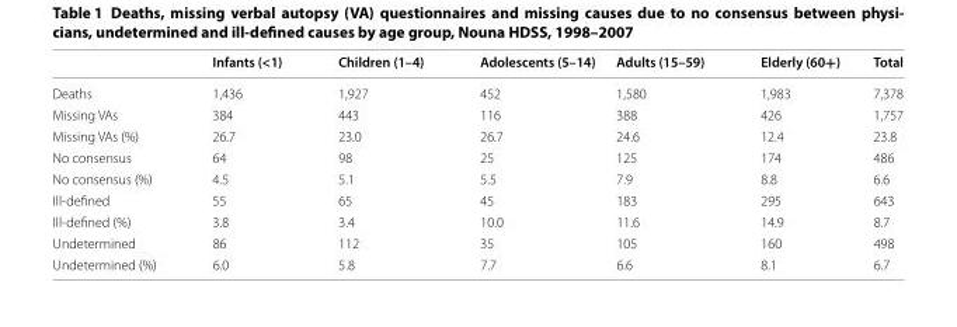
<table><thead><tr><td></td><td>Infants (&lt;1)</td><td>Children (1–4)</td><td>Adolescents (5–14)</td><td>Adults (15–59)</td><td>Elderly (60+)</td><td>Total</td></tr></thead><tbody><tr><td>Deaths</td><td>1,436</td><td>1,927</td><td>452</td><td>1,580</td><td>1,983</td><td>7,378</td></tr><tr><td>Missing VAs</td><td>384</td><td>443</td><td>116</td><td>388</td><td>426</td><td>1,757</td></tr><tr><td>Missing VAs (%)</td><td>26.7</td><td>23.0</td><td>26.7</td><td>24.6</td><td>12.4</td><td>23.8</td></tr><tr><td>No consensus</td><td>64</td><td>98</td><td>25</td><td>125</td><td>174</td><td>486</td></tr><tr><td>No consensus (%)</td><td>4.5</td><td>5.1</td><td>5.5</td><td>7.9</td><td>8.8</td><td>6.6</td></tr><tr><td>Ill-defined</td><td>55</td><td>65</td><td>45</td><td>183</td><td>295</td><td>643</td></tr><tr><td>Ill-defined (%)</td><td>3.8</td><td>3.4</td><td>10.0</td><td>11.6</td><td>14.9</td><td>8.7</td></tr><tr><td>Undetermined</td><td>86</td><td>112</td><td>35</td><td>105</td><td>160</td><td>498</td></tr><tr><td>Undetermined (%)</td><td>6.0</td><td>5.8</td><td>7.7</td><td>6.6</td><td>8.1</td><td>6.7</td></tr></tbody></table>